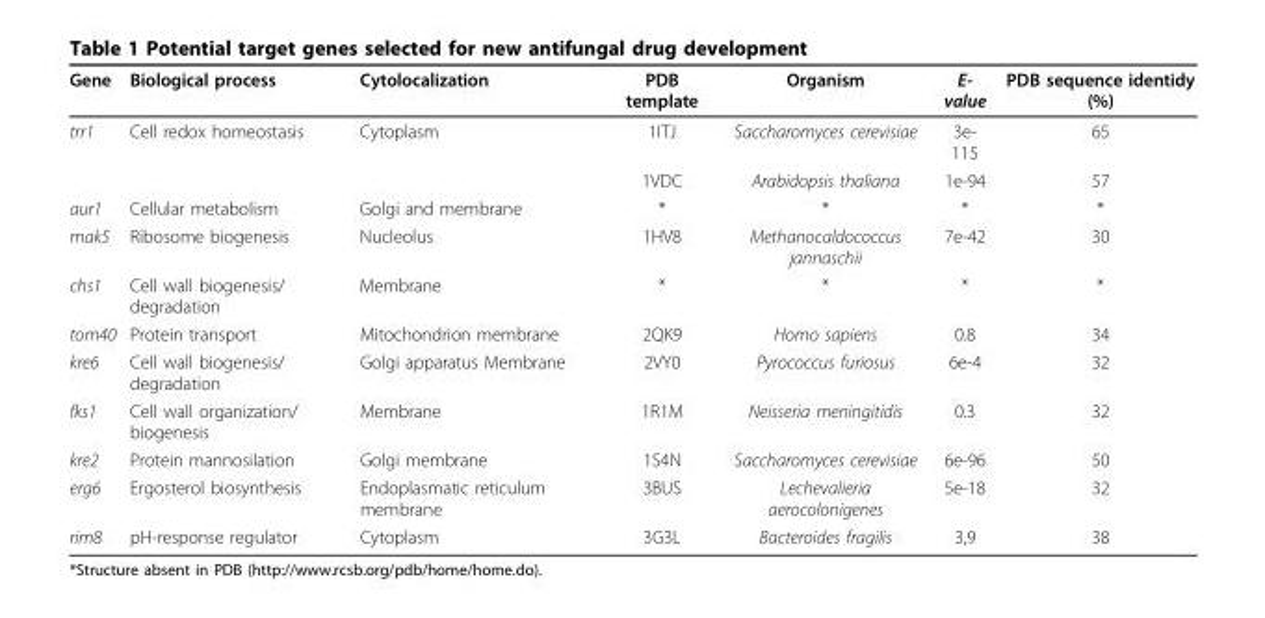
<table><thead><tr><td>Gene</td><td>Biological process</td><td>Cytolocalization</td><td>PDB template</td><td>Organism</td><td>E- value</td><td>PDB sequence identidy (%)</td></tr></thead><tbody><tr><td rowspan="2">trr1</td><td>Cell redox homeostasis</td><td>Cytoplasm</td><td>1ITJ</td><td>Saccharomyces cerevisiae</td><td>3e- 115</td><td>65</td></tr><tr><td></td><td></td><td>1VDC</td><td>Arabidopsis thaliana</td><td>1e-94</td><td>57</td></tr><tr><td>aur1</td><td>Cellular metabolism</td><td>Golgi and membrane</td><td>*</td><td>*</td><td>*</td><td>*</td></tr><tr><td>mak5</td><td>Ribosome biogenesis</td><td>Nucleolus</td><td>1HV8</td><td>Methanocaldococcus jannaschii</td><td>7e-42</td><td>30</td></tr><tr><td>chs1</td><td>Cell wall biogenesis/ degradation</td><td>Membrane</td><td>*</td><td>*</td><td>*</td><td>*</td></tr><tr><td>tom40</td><td>Protein transport</td><td>Mitochondrion membrane</td><td>2QK9</td><td>Homo sapiens</td><td>0.8</td><td>34</td></tr><tr><td>kre6</td><td>Cell wall biogenesis/ degradation</td><td>Golgi apparatus Membrane</td><td>2VY0</td><td>Pyrococcus furiosus</td><td>6e-4</td><td>32</td></tr><tr><td>fks1</td><td>Cell wall organization/ biogenesis</td><td>Membrane</td><td>1R1M</td><td>Neisseria meningitidis</td><td>0.3</td><td>32</td></tr><tr><td>kre2</td><td>Protein mannosilation</td><td>Golgi membrane</td><td>1S4N</td><td>Saccharomyces cerevisiae</td><td>6e-96</td><td>50</td></tr><tr><td>erg6</td><td>Ergosterol biosynthesis</td><td>Endoplasmatic reticulum membrane</td><td>3BUS</td><td>Lechevalieria aerocolonigenes</td><td>5e-18</td><td>32</td></tr><tr><td>rim8</td><td>pH-response regulator</td><td>Cytoplasm</td><td>3G3L</td><td>Bacteroides fragilis</td><td>3,9</td><td>38</td></tr></tbody></table>